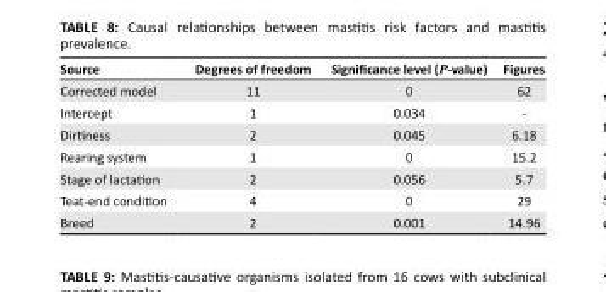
<table><thead><tr><td>Source</td><td>Degrees of freedom</td><td>Significance level (P-value)</td><td>Figures</td></tr></thead><tbody><tr><td>Corrected model</td><td>11</td><td>0</td><td>62</td></tr><tr><td>Intercept</td><td>1</td><td>0.034</td><td>-</td></tr><tr><td>Dirtiness</td><td>2</td><td>0.045</td><td>6.18</td></tr><tr><td>Rearing system</td><td>1</td><td>0</td><td>15.2</td></tr><tr><td>Stage of lactation</td><td>2</td><td>0.056</td><td>5.7</td></tr><tr><td>Teat-end condition</td><td>4</td><td>0</td><td>29</td></tr><tr><td>Breed</td><td>2</td><td>0.001</td><td>14.96</td></tr></tbody></table>